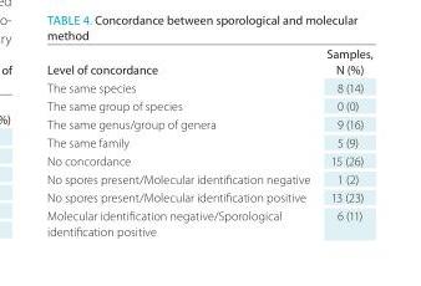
<table><thead><tr><td>level of concordance</td><td>Samples, n (%)</td></tr></thead><tbody><tr><td>The same species</td><td>8 (14)</td></tr><tr><td>The same group of species</td><td>0 (0)</td></tr><tr><td>The same genus/group of genera</td><td>9 (16)</td></tr><tr><td>The same family</td><td>5 (9)</td></tr><tr><td>No concordance</td><td>15 (26)</td></tr><tr><td>No spores present/Molecular identification negative</td><td>1 (2)</td></tr><tr><td>No spores present/Molecular identification positive</td><td>13 (23)</td></tr><tr><td>Molecular identification negative/Sporological identification positive</td><td>6 (11)</td></tr></tbody></table>